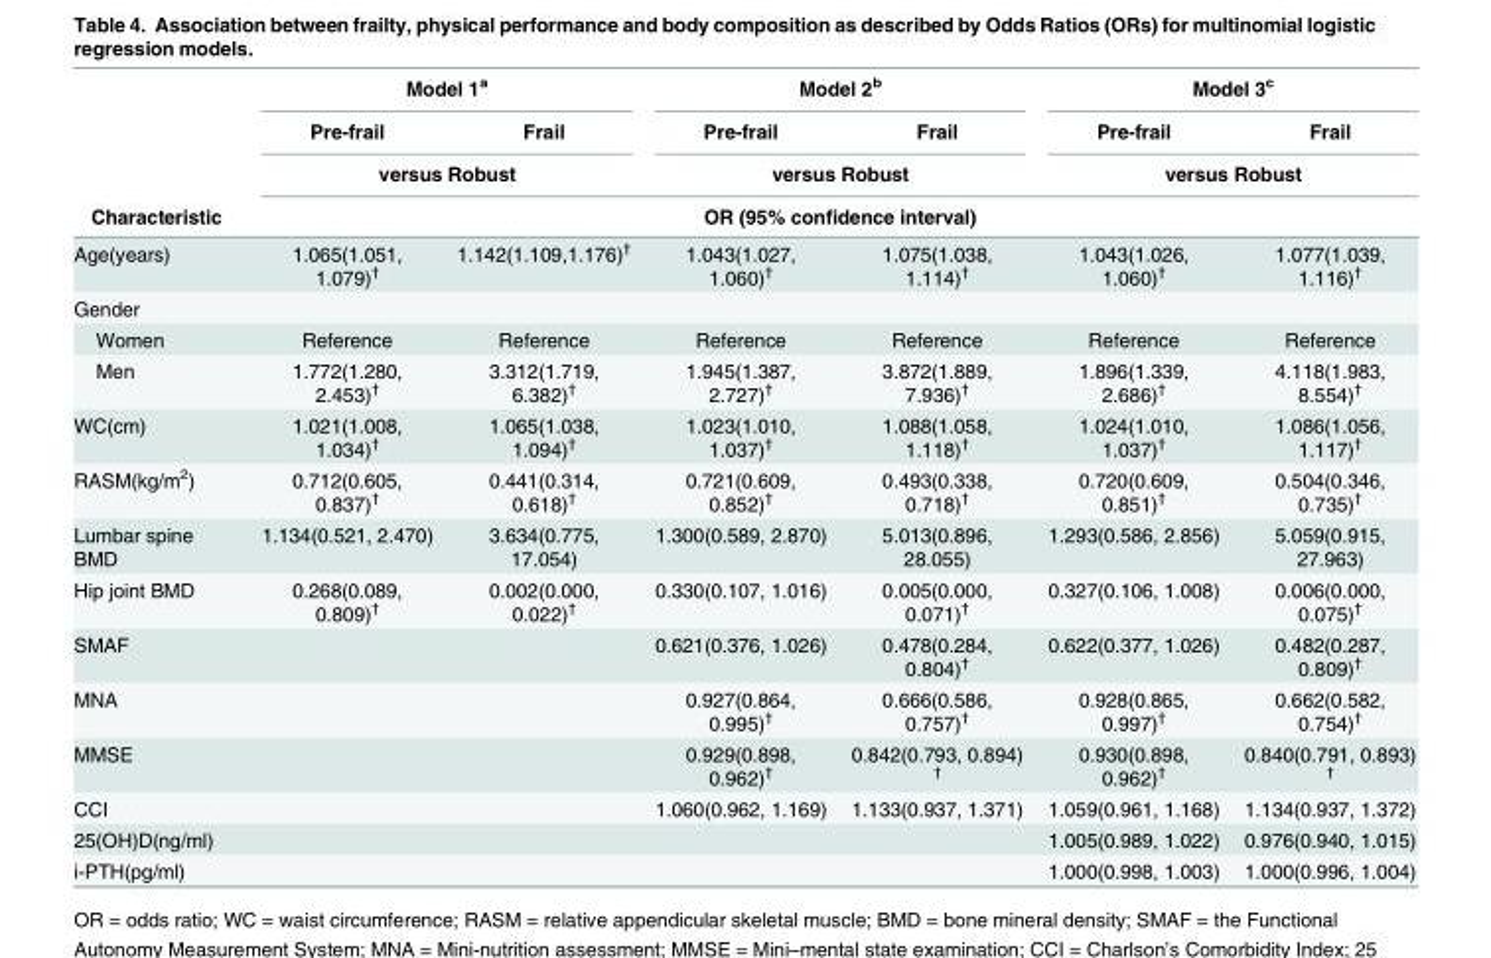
<table><thead><tr><td rowspan="4">Characteristic</td><td colspan="2">Model 1<sup>a</sup></td><td colspan="2">Model 2<sup>b</sup></td><td colspan="2">Model 3<sup>c</sup></td></tr><tr><td>Pre-frail</td><td>Frail</td><td>Pre-frail</td><td>Frail</td><td>Pre-frail</td><td>Frail</td></tr><tr><td colspan="2">versus Robust</td><td colspan="2">versus Robust</td><td colspan="2">versus Robust</td></tr><tr><td colspan="6">OR (95% confidence interval)</td></tr></thead><tbody><tr><td>Age(years)</td><td>1.065(1.051, 1.079)<sup>†</sup></td><td>1.142(1.109,1.176)<sup>†</sup></td><td>1.043(1.027, 1.060)<sup>†</sup></td><td>1.075(1.038, 1.114)<sup>†</sup></td><td>1.043(1.026, 1.060)<sup>†</sup></td><td>1.077(1.039, 1.116)<sup>†</sup></td></tr><tr><td colspan="7">Gender</td></tr><tr><td>Women</td><td>Reference</td><td>Reference</td><td>Reference</td><td>Reference</td><td>Reference</td><td>Reference</td></tr><tr><td>Men</td><td>1.772(1.280, 2.453)<sup>†</sup></td><td>3.312(1.719, 6.382)<sup>†</sup></td><td>1.945(1.387, 2.727)<sup>†</sup></td><td>3.872(1.889, 7.936)<sup>†</sup></td><td>1.896(1.339, 2.686)<sup>†</sup></td><td>4.118(1.983, 8.554)<sup>†</sup></td></tr><tr><td>WC(cm)</td><td>1.021(1.008, 1.034)<sup>†</sup></td><td>1.065(1.038, 1.094)<sup>†</sup></td><td>1.023(1.010, 1.037)<sup>†</sup></td><td>1.088(1.058, 1.118)<sup>†</sup></td><td>1.024(1.010, 1.037)<sup>†</sup></td><td>1.086(1.056, 1.117)<sup>†</sup></td></tr><tr><td>RASM(kg/m<sup>2</sup>)</td><td>0.712(0.605, 0.837)<sup>†</sup></td><td>0.441(0.314, 0.618)<sup>†</sup></td><td>0.721(0.609, 0.852)<sup>†</sup></td><td>0.493(0.338, 0.718)<sup>†</sup></td><td>0.720(0.609, 0.851)<sup>†</sup></td><td>0.504(0.346, 0.735)<sup>†</sup></td></tr><tr><td>Lumbar spine BMD</td><td>1.134(0.521, 2.470)</td><td>3.634(0.775, 17.054)</td><td>1.300(0.589, 2.870)</td><td>5.013(0.896, 28.055)</td><td>1.293(0.586, 2.856)</td><td>5.059(0.915, 27.963)</td></tr><tr><td>Hip joint BMD</td><td>0.268(0.089, 0.809)<sup>†</sup></td><td>0.002(0.000, 0.022)<sup>†</sup></td><td>0.330(0.107, 1.016)</td><td>0.005(0.000, 0.071)<sup>†</sup></td><td>0.327(0.106, 1.008)</td><td>0.006(0.000, 0.075)<sup>†</sup></td></tr><tr><td>SMAF</td><td></td><td></td><td>0.621(0.376, 1.026)</td><td>0.478(0.284, 0.804)<sup>†</sup></td><td>0.622(0.377, 1.026)</td><td>0.482(0.287, 0.809)<sup>†</sup></td></tr><tr><td>MNA</td><td></td><td></td><td>0.927(0.864, 0.995)<sup>†</sup></td><td>0.666(0.586, 0.757)<sup>†</sup></td><td>0.928(0.865, 0.997)<sup>†</sup></td><td>0.662(0.582, 0.754)<sup>†</sup></td></tr><tr><td>MMSE</td><td></td><td></td><td>0.929(0.898, 0.962)<sup>†</sup></td><td>0.842(0.793, 0.894) <sup>†</sup></td><td>0.930(0.898, 0.962)<sup>†</sup></td><td>0.840(0.791, 0.893) <sup>†</sup></td></tr><tr><td>CCI</td><td></td><td></td><td>1.060(0.962, 1.169)</td><td>1.133(0.937, 1.371)</td><td>1.059(0.961, 1.168)</td><td>1.134(0.937, 1.372)</td></tr><tr><td>25(OH)D(ng/ml)</td><td></td><td></td><td></td><td></td><td>1.005(0.989, 1.022)</td><td>0.976(0.940, 1.015)</td></tr><tr><td>i-PTH(pg/ml)</td><td></td><td></td><td></td><td></td><td>1.000(0.998, 1.003)</td><td>1.000(0.996, 1.004)</td></tr></tbody></table>